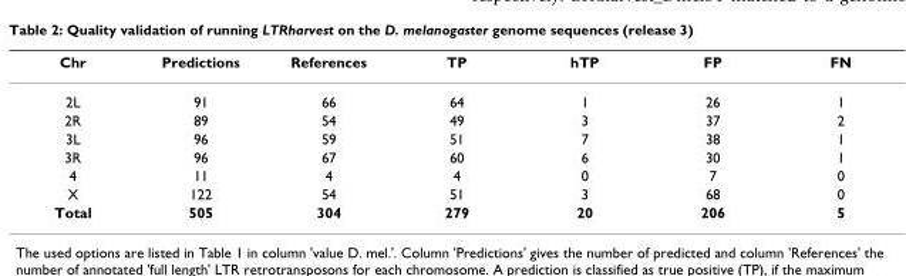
<table><thead><tr><td>Chr</td><td>Predictions</td><td>References</td><td>TP</td><td>hTP</td><td>FP</td><td>FN</td></tr></thead><tbody><tr><td>2L</td><td>91</td><td>66</td><td>64</td><td>1</td><td>26</td><td>1</td></tr><tr><td>2R</td><td>89</td><td>54</td><td>49</td><td>3</td><td>37</td><td>2</td></tr><tr><td>3L</td><td>96</td><td>59</td><td>51</td><td>7</td><td>38</td><td>1</td></tr><tr><td>3R</td><td>96</td><td>67</td><td>60</td><td>6</td><td>30</td><td>1</td></tr><tr><td>4</td><td>11</td><td>4</td><td>4</td><td>0</td><td>7</td><td>0</td></tr><tr><td>X</td><td>122</td><td>54</td><td>51</td><td>3</td><td>68</td><td>0</td></tr><tr><td>Total</td><td>505</td><td>304</td><td>279</td><td>20</td><td>206</td><td>5</td></tr></tbody></table>